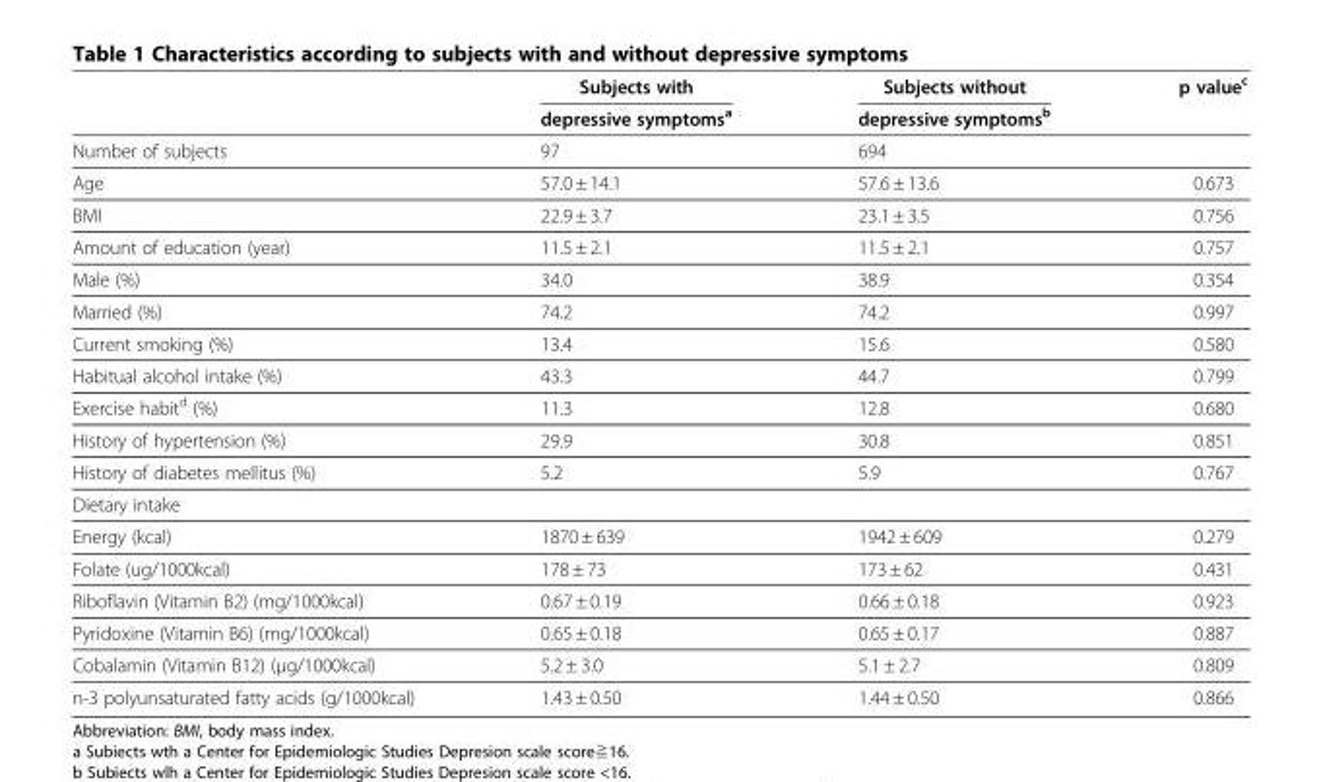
<table><thead><tr><td rowspan="2"></td><td rowspan="2">Subjects with depressive symptoms<sup>a</sup></td><td rowspan="2">Subjects without depressive symptoms<sup>b</sup></td><td rowspan="2">p value<sup>c</sup></td></tr><tr></tr></thead><tbody><tr><td>Number of subjects</td><td>97</td><td>694</td><td></td></tr><tr><td>Age</td><td>57.0 ± 14.1</td><td>57.6 ± 13.6</td><td>0.673</td></tr><tr><td>BMI</td><td>22.9 ± 3.7</td><td>23.1 ± 3.5</td><td>0.756</td></tr><tr><td>Amount of education (year)</td><td>11.5 ± 2.1</td><td>11.5 ± 2.1</td><td>0.757</td></tr><tr><td>Male (%)</td><td>34.0</td><td>38.9</td><td>0.354</td></tr><tr><td>Married (%)</td><td>74.2</td><td>74.2</td><td>0.997</td></tr><tr><td>Current smoking (%)</td><td>13.4</td><td>15.6</td><td>0.580</td></tr><tr><td>Habitual alcohol intake (%)</td><td>43.3</td><td>44.7</td><td>0.799</td></tr><tr><td>Exercise habit<sup>d</sup> (%)</td><td>11.3</td><td>12.8</td><td>0.680</td></tr><tr><td>History of hypertension (%)</td><td>29.9</td><td>30.8</td><td>0.851</td></tr><tr><td>History of diabetes mellitus (%)</td><td>5.2</td><td>5.9</td><td>0.767</td></tr><tr><td colspan="4">Dietary intake</td></tr><tr><td>Energy (kcal)</td><td>1870 ± 639</td><td>1942 ± 609</td><td>0.279</td></tr><tr><td>Folate (ug/1000kcal)</td><td>178 ± 73</td><td>173 ± 62</td><td>0.431</td></tr><tr><td>Riboflavin (Vitamin B2) (mg/1000kcal)</td><td>0.67 ± 0.19</td><td>0.66 ± 0.18</td><td>0.923</td></tr><tr><td>Pyridoxine (Vitamin B6) (mg/1000kcal)</td><td>0.65 ± 0.18</td><td>0.65 ± 0.17</td><td>0.887</td></tr><tr><td>Cobalamin (Vitamin B12) (μg/1000kcal)</td><td>5.2 ± 3.0</td><td>5.1 ± 2.7</td><td>0.809</td></tr><tr><td>n-3 polyunsaturated fatty acids (g/1000kcal)</td><td>1.43 ± 0.50</td><td>1.44 ± 0.50</td><td>0.866</td></tr></tbody></table>